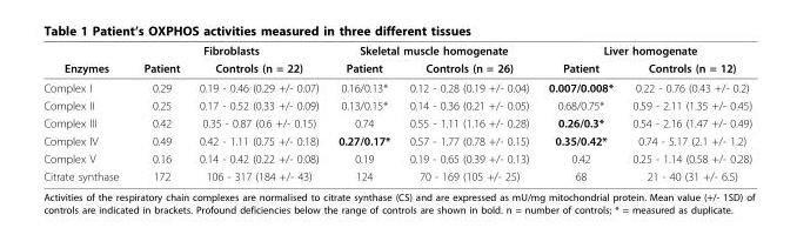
<table><thead><tr><td rowspan="2">Enzymes</td><td colspan="2">Fibroblasts</td><td colspan="2">Skeletal muscle homogenate</td><td colspan="2">Liver homogenate</td></tr><tr><td>Patient</td><td>Controls (n = 22)</td><td>Patient</td><td>Controls (n = 26)</td><td>Patient</td><td>Controls (n = 12)</td></tr></thead><tbody><tr><td>Complex I</td><td>0.29</td><td>0.19 - 0.46 (0.29 +/- 0.07)</td><td>0.16/0.13*</td><td>0.12 - 0.28 (0.19 +/- 0.04)</td><td>0.007/0.008*</td><td>0.22 - 0.76 (0.43 +/- 0.2)</td></tr><tr><td>Complex II</td><td>0.25</td><td>0.17 - 0.52 (0.33 +/- 0.09)</td><td>0.13/0.15*</td><td>0.14 - 0.36 (0.21 +/- 0.05)</td><td>0.68/0.75*</td><td>0.59 - 2.11 (1.35 +/- 0.45)</td></tr><tr><td>Complex III</td><td>0.42</td><td>0.35 - 0.87 (0.6 +/- 0.15)</td><td>0.74</td><td>0.55 - 1.11 (1.16 +/- 0.28)</td><td>0.26/0.3*</td><td>0.54 - 2.16 (1.47 +/- 0.49)</td></tr><tr><td>Complex IV</td><td>0.49</td><td>0.42 - 1.11 (0.75 +/- 0.18)</td><td>0.27/0.17*</td><td>0.57 - 1.77 (0.78 +/- 0.15)</td><td>0.35/0.42*</td><td>0.74 - 5.17 (2.1 +/- 1.2)</td></tr><tr><td>Complex V</td><td>0.16</td><td>0.14 - 0.42 (0.22 +/- 0.08)</td><td>0.19</td><td>0.19 - 0.65 (0.39 +/- 0.13)</td><td>0.42</td><td>0.25 - 1.14 (0.58 +/- 0.28)</td></tr><tr><td>Citrate synthase</td><td>172</td><td>106 - 317 (184 +/- 43)</td><td>124</td><td>70 - 169 (105 +/- 25)</td><td>68</td><td>21 - 40 (31 +/- 6.5)</td></tr></tbody></table>